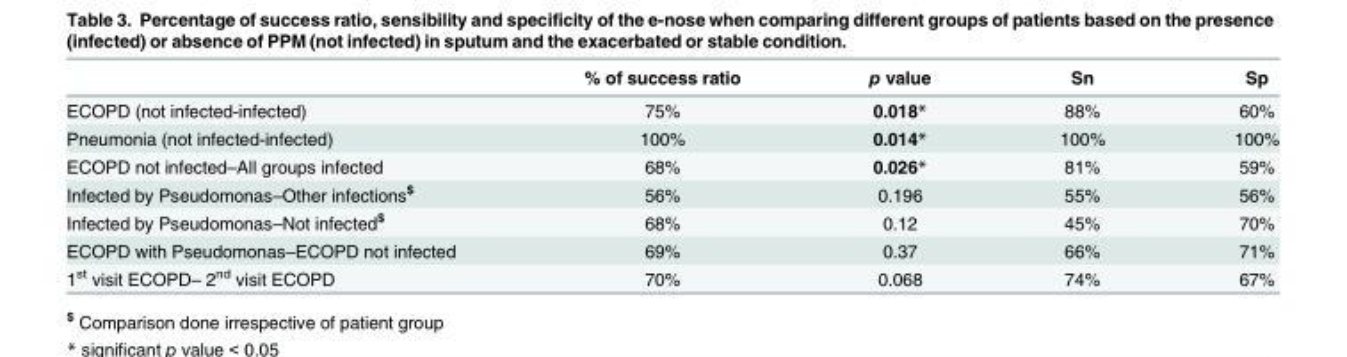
<table><thead><tr><td></td><td>% of success ratio</td><td>p value</td><td>Sn</td><td>Sp</td></tr></thead><tbody><tr><td>ECOPD (not infected-infected)</td><td>75%</td><td>0.018*</td><td>88%</td><td>60%</td></tr><tr><td>Pneumonia (not infected-infected)</td><td>100%</td><td>0.014*</td><td>100%</td><td>100%</td></tr><tr><td>ECOPD not infected–All groups infected</td><td>68%</td><td>0.026*</td><td>81%</td><td>59%</td></tr><tr><td>Infected by Pseudomonas–Other infections<sup>$</sup></td><td>56%</td><td>0.196</td><td>55%</td><td>56%</td></tr><tr><td>Infected by Pseudomonas–Not infected<sup>$</sup></td><td>68%</td><td>0.12</td><td>45%</td><td>70%</td></tr><tr><td>ECOPD with Pseudomonas–ECOPD not infected</td><td>69%</td><td>0.37</td><td>66%</td><td>71%</td></tr><tr><td>1<sup>st</sup> visit ECOPD– 2<sup>nd</sup> visit ECOPD</td><td>70%</td><td>0.068</td><td>74%</td><td>67%</td></tr></tbody></table>